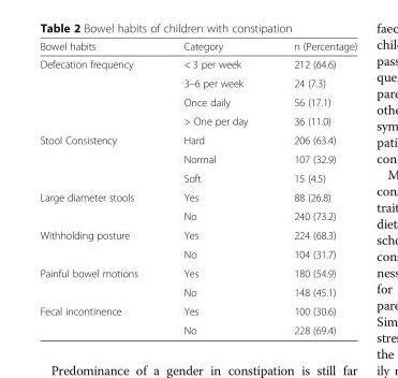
<table><thead><tr><td>Bowel habits</td><td>Category</td><td>n (Percentage)</td></tr></thead><tbody><tr><td rowspan="4">Defecation frequency</td><td>&lt; 3 per week</td><td>212 (64.6)</td></tr><tr><td>3–6 per week</td><td>24 (7.3)</td></tr><tr><td>Once daily</td><td>56 (17.1)</td></tr><tr><td>&gt; One per day</td><td>36 (11.0)</td></tr><tr><td rowspan="3">Stool Consistency</td><td>Hard</td><td>206 (63.4)</td></tr><tr><td>Normal</td><td>107 (32.9)</td></tr><tr><td>Soft</td><td>15 (4.5)</td></tr><tr><td rowspan="2">Large diameter stools</td><td>Yes</td><td>88 (26.8)</td></tr><tr><td>No</td><td>240 (73.2)</td></tr><tr><td rowspan="2">Withholding posture</td><td>Yes</td><td>224 (68.3)</td></tr><tr><td>No</td><td>104 (31.7)</td></tr><tr><td rowspan="2">Painful bowel motions</td><td>Yes</td><td>180 (54.9)</td></tr><tr><td>No</td><td>148 (45.1)</td></tr><tr><td rowspan="2">Fecal incontinence</td><td>Yes</td><td>100 (30.6)</td></tr><tr><td>No</td><td>228 (69.4)</td></tr></tbody></table>